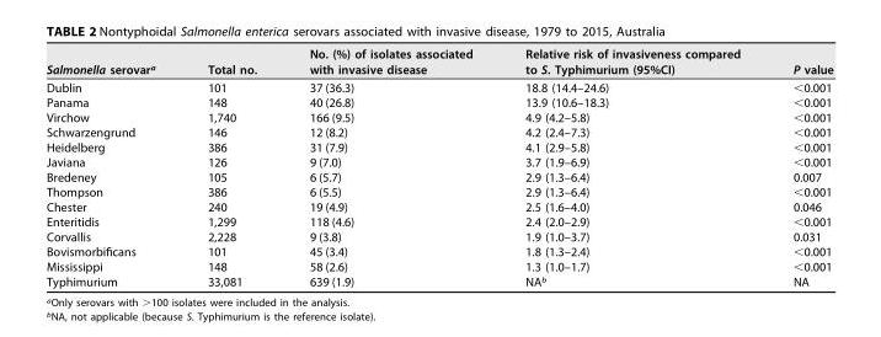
<table><thead><tr><td>Salmonella serovar<sup>a</sup></td><td>Total no.</td><td>No. (%) of isolates associated with invasive disease</td><td>Relative risk of invasiveness compared to S. Typhimurium (95%CI)</td><td>P value</td></tr></thead><tbody><tr><td>Dublin</td><td>101</td><td>37 (36.3)</td><td>18.8 (14.4–24.6)</td><td>&lt;0.001</td></tr><tr><td>Panama</td><td>148</td><td>40 (26.8)</td><td>13.9 (10.6–18.3)</td><td>&lt;0.001</td></tr><tr><td>Virchow</td><td>1,740</td><td>166 (9.5)</td><td>4.9 (4.2–5.8)</td><td>&lt;0.001</td></tr><tr><td>Schwarzengrund</td><td>146</td><td>12 (8.2)</td><td>4.2 (2.4–7.3)</td><td>&lt;0.001</td></tr><tr><td>Heidelberg</td><td>386</td><td>31 (7.9)</td><td>4.1 (2.9–5.8)</td><td>&lt;0.001</td></tr><tr><td>Javiana</td><td>126</td><td>9 (7.0)</td><td>3.7 (1.9–6.9)</td><td>&lt;0.001</td></tr><tr><td>Bredeney</td><td>105</td><td>6 (5.7)</td><td>2.9 (1.3–6.4)</td><td>0.007</td></tr><tr><td>Thompson</td><td>386</td><td>6 (5.5)</td><td>2.9 (1.3–6.4)</td><td>&lt;0.001</td></tr><tr><td>Chester</td><td>240</td><td>19 (4.9)</td><td>2.5 (1.6–4.0)</td><td>0.046</td></tr><tr><td>Enteritidis</td><td>1,299</td><td>118 (4.6)</td><td>2.4 (2.0–2.9)</td><td>&lt;0.001</td></tr><tr><td>Corvallis</td><td>2,228</td><td>9 (3.8)</td><td>1.9 (1.0–3.7)</td><td>0.031</td></tr><tr><td>Bovismorbificans</td><td>101</td><td>45 (3.4)</td><td>1.8 (1.3–2.4)</td><td>&lt;0.001</td></tr><tr><td>Mississippi</td><td>148</td><td>58 (2.6)</td><td>1.3 (1.0–1.7)</td><td>&lt;0.001</td></tr><tr><td>Typhimurium</td><td>33,081</td><td>639 (1.9)</td><td>NA<sup>b</sup></td><td>NA</td></tr></tbody></table>